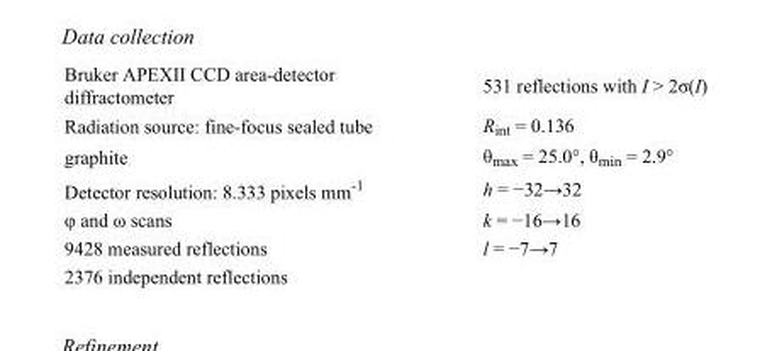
<table><tbody><tr><td>Bruker APEXII CCD area-detector diffractometer</td><td>531 reflections with I &gt; 2σ(I)</td></tr><tr><td>Radiation source: fine-focus sealed tube</td><td>R<sub>int</sub> = 0.136</td></tr><tr><td>graphite</td><td>θ<sub>max</sub> = 25.0°, θ<sub>min</sub> = 2.9°</td></tr><tr><td>Detector resolution: 8.333 pixels mm<sup>-1</sup></td><td>h = −32→32</td></tr><tr><td>φ and ω scans</td><td>k = −16→16</td></tr><tr><td>9428 measured reflections</td><td>l = −7→7</td></tr><tr><td>2376 independent reflections</td><td></td></tr></tbody></table>